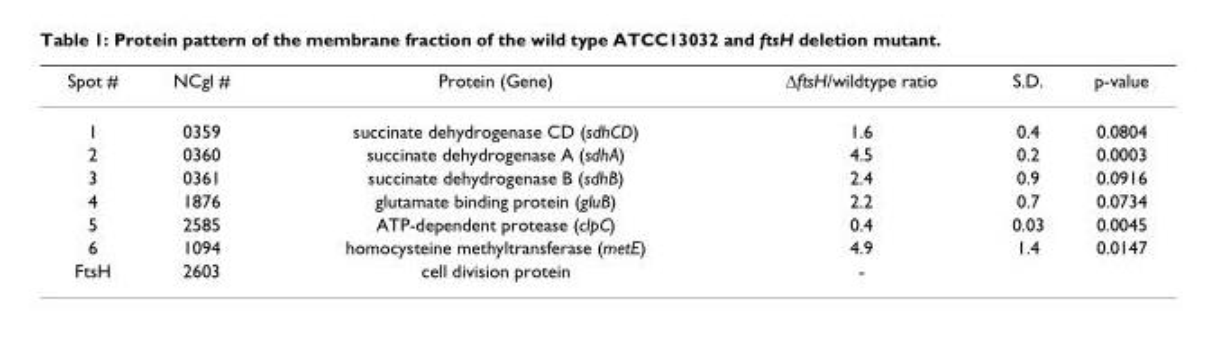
<table><thead><tr><td>Spot #</td><td>NCgl #</td><td>Protein (Gene)</td><td>∆ftsH/wildtype ratio</td><td>S.D.</td><td>p-value</td></tr></thead><tbody><tr><td>1</td><td>0359</td><td>succinate dehydrogenase CD (sdhCD)</td><td>1.6</td><td>0.4</td><td>0.0804</td></tr><tr><td>2</td><td>0360</td><td>succinate dehydrogenase A (sdhA)</td><td>4.5</td><td>0.2</td><td>0.0003</td></tr><tr><td>3</td><td>0361</td><td>succinate dehydrogenase B (sdhB)</td><td>2.4</td><td>0.9</td><td>0.0916</td></tr><tr><td>4</td><td>1876</td><td>glutamate binding protein (gluB)</td><td>2.2</td><td>0.7</td><td>0.0734</td></tr><tr><td>5</td><td>2585</td><td>ATP-dependent protease (clpC)</td><td>0.4</td><td>0.03</td><td>0.0045</td></tr><tr><td>6</td><td>1094</td><td>homocysteine methyltransferase (metE)</td><td>4.9</td><td>1.4</td><td>0.0147</td></tr><tr><td>FtsH</td><td>2603</td><td>cell division protein</td><td>-</td><td></td><td></td></tr></tbody></table>